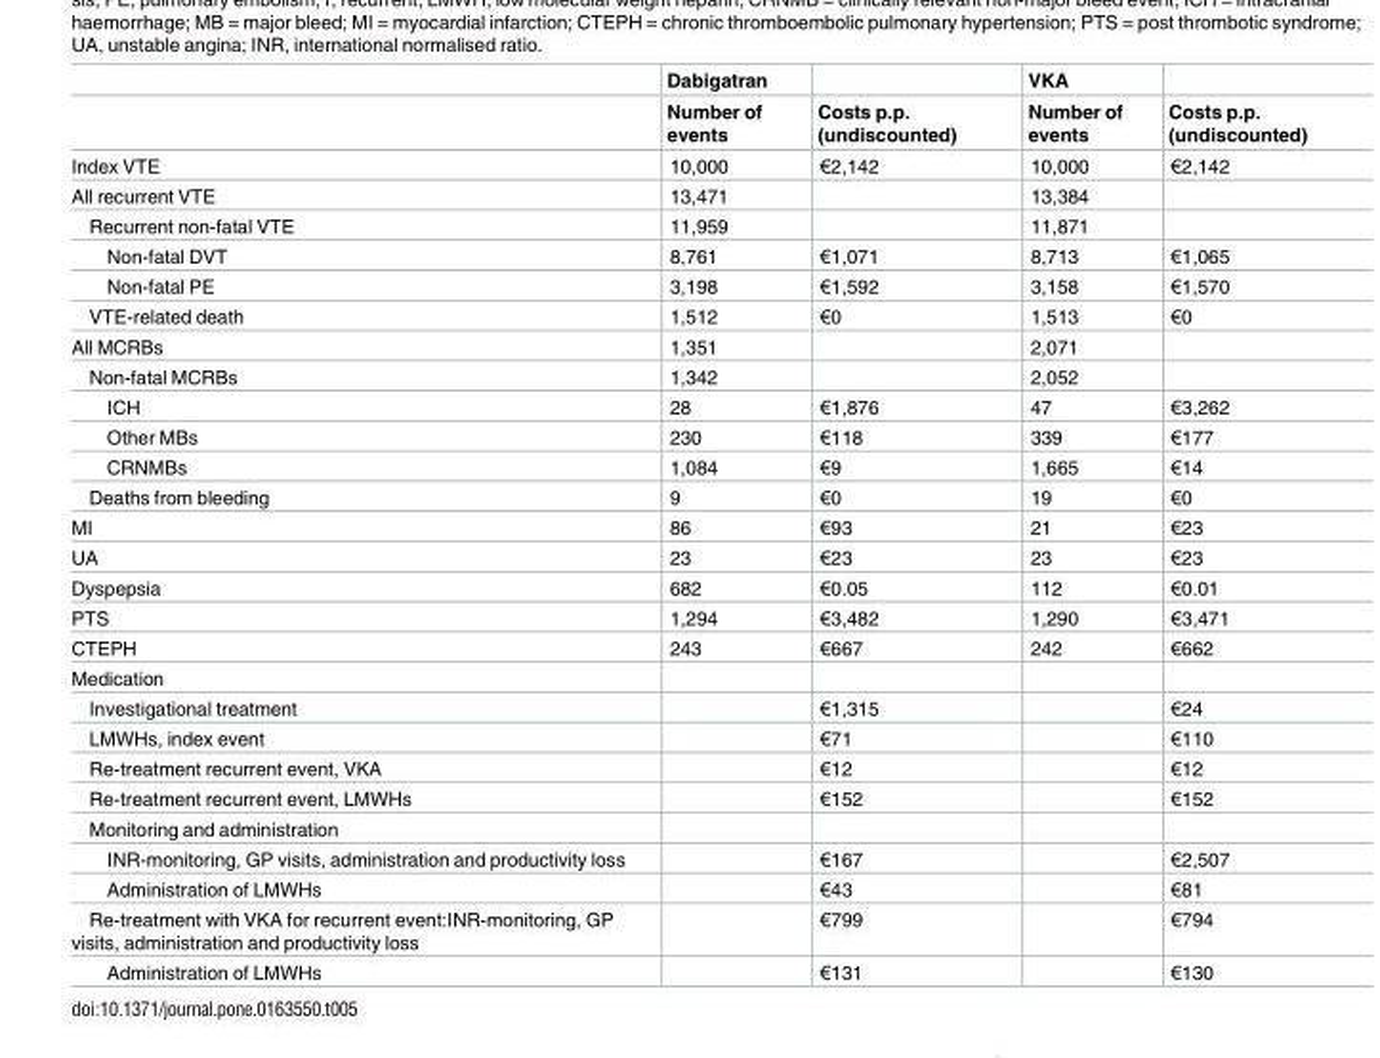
<table><thead><tr><td rowspan="2"></td><td rowspan="2">Dabigatran Number of events</td><td rowspan="2">Costs p.p. (undiscounted)</td><td rowspan="2">VKA Number of events</td><td rowspan="2">Costs p.p. (undiscounted)</td></tr><tr></tr></thead><tbody><tr><td>Index VTE</td><td>10,000</td><td>€2,142</td><td>10,000</td><td>€2,142</td></tr><tr><td>All recurrent VTE</td><td>13,471</td><td></td><td>13,384</td><td></td></tr><tr><td>Recurrent non-fatal VTE</td><td>11,959</td><td></td><td>11,871</td><td></td></tr><tr><td>Non-fatal DVT</td><td>8,761</td><td>€1,071</td><td>8,713</td><td>€1,065</td></tr><tr><td>Non-fatal PE</td><td>3,198</td><td>€1,592</td><td>3,158</td><td>€1,570</td></tr><tr><td>VTE-related death</td><td>1,512</td><td>€0</td><td>1,513</td><td>€0</td></tr><tr><td>All MCRBs</td><td>1,351</td><td></td><td>2,071</td><td></td></tr><tr><td>Non-fatal MCRBs</td><td>1,342</td><td></td><td>2,052</td><td></td></tr><tr><td>ICH</td><td>28</td><td>€1,876</td><td>47</td><td>€3,262</td></tr><tr><td>Other MBs</td><td>230</td><td>€118</td><td>339</td><td>€177</td></tr><tr><td>CRNMBs</td><td>1,084</td><td>€9</td><td>1,665</td><td>€14</td></tr><tr><td>Deaths from bleeding</td><td>9</td><td>€0</td><td>19</td><td>€0</td></tr><tr><td>MI</td><td>86</td><td>€93</td><td>21</td><td>€23</td></tr><tr><td>UA</td><td>23</td><td>€23</td><td>23</td><td>€23</td></tr><tr><td>Dyspepsia</td><td>682</td><td>€0.05</td><td>112</td><td>€0.01</td></tr><tr><td>PTS</td><td>1,294</td><td>€3,482</td><td>1,290</td><td>€3,471</td></tr><tr><td>CTEPH</td><td>243</td><td>€667</td><td>242</td><td>€662</td></tr><tr><td colspan="5">Medication</td></tr><tr><td>Investigational treatment</td><td></td><td>€1,315</td><td></td><td>€24</td></tr><tr><td>LMWHs, index event</td><td></td><td>€71</td><td></td><td>€110</td></tr><tr><td>Re-treatment recurrent event, VKA</td><td></td><td>€12</td><td></td><td>€12</td></tr><tr><td>Re-treatment recurrent event, LMWHs</td><td></td><td>€152</td><td></td><td>€152</td></tr><tr><td colspan="5">Monitoring and administration</td></tr><tr><td>INR-monitoring, GP visits, administration and productivity loss</td><td></td><td>€167</td><td></td><td>€2,507</td></tr><tr><td>Administration of LMWHs</td><td></td><td>€43</td><td></td><td>€81</td></tr><tr><td>Re-treatment with VKA for recurrent event:INR-monitoring, GP visits, administration and productivity loss</td><td></td><td>€799</td><td></td><td>€794</td></tr><tr><td>Administration of LMWHs</td><td></td><td>€131</td><td></td><td>€130</td></tr></tbody></table>